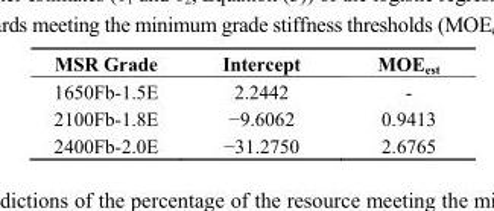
<table><thead><tr><td>MSR Grade</td><td>Intercept</td><td>MOE<sub>est</sub></td></tr></thead><tbody><tr><td>1650Fb-1.5E</td><td>2.2442</td><td>-</td></tr><tr><td>2100Fb-1.8E</td><td>−9.6062</td><td>0.9413</td></tr><tr><td>2400Fb-2.0E</td><td>−31.2750</td><td>2.6765</td></tr></tbody></table>